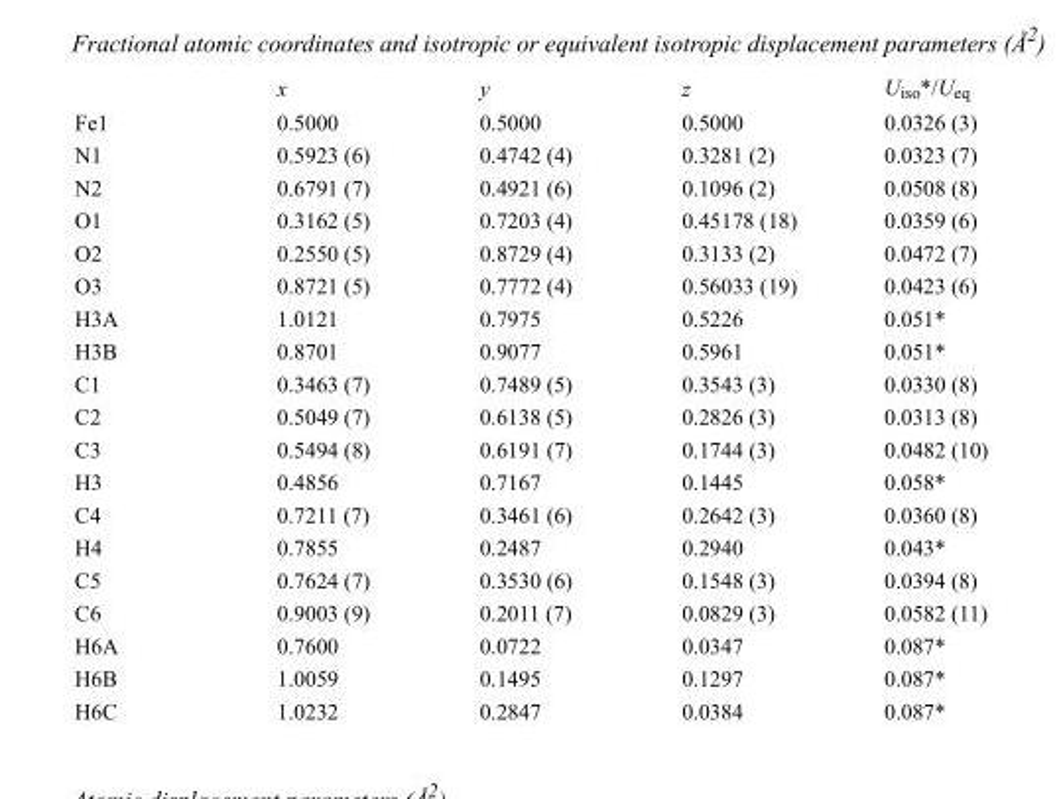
<table><thead><tr><td></td><td>x</td><td>y</td><td>z</td><td>U<sub>iso</sub>*/U<sub>eq</sub></td></tr></thead><tbody><tr><td>Fe1</td><td>0.5000</td><td>0.5000</td><td>0.5000</td><td>0.0326 (3)</td></tr><tr><td>N1</td><td>0.5923 (6)</td><td>0.4742 (4)</td><td>0.3281 (2)</td><td>0.0323 (7)</td></tr><tr><td>N2</td><td>0.6791 (7)</td><td>0.4921 (6)</td><td>0.1096 (2)</td><td>0.0508 (8)</td></tr><tr><td>O1</td><td>0.3162 (5)</td><td>0.7203 (4)</td><td>0.45178 (18)</td><td>0.0359 (6)</td></tr><tr><td>O2</td><td>0.2550 (5)</td><td>0.8729 (4)</td><td>0.3133 (2)</td><td>0.0472 (7)</td></tr><tr><td>O3</td><td>0.8721 (5)</td><td>0.7772 (4)</td><td>0.56033 (19)</td><td>0.0423 (6)</td></tr><tr><td>H3A</td><td>1.0121</td><td>0.7975</td><td>0.5226</td><td>0.051*</td></tr><tr><td>H3B</td><td>0.8701</td><td>0.9077</td><td>0.5961</td><td>0.051*</td></tr><tr><td>C1</td><td>0.3463 (7)</td><td>0.7489 (5)</td><td>0.3543 (3)</td><td>0.0330 (8)</td></tr><tr><td>C2</td><td>0.5049 (7)</td><td>0.6138 (5)</td><td>0.2826 (3)</td><td>0.0313 (8)</td></tr><tr><td>C3</td><td>0.5494 (8)</td><td>0.6191 (7)</td><td>0.1744 (3)</td><td>0.0482 (10)</td></tr><tr><td>H3</td><td>0.4856</td><td>0.7167</td><td>0.1445</td><td>0.058*</td></tr><tr><td>C4</td><td>0.7211 (7)</td><td>0.3461 (6)</td><td>0.2642 (3)</td><td>0.0360 (8)</td></tr><tr><td>H4</td><td>0.7855</td><td>0.2487</td><td>0.2940</td><td>0.043*</td></tr><tr><td>C5</td><td>0.7624 (7)</td><td>0.3530 (6)</td><td>0.1548 (3)</td><td>0.0394 (8)</td></tr><tr><td>C6</td><td>0.9003 (9)</td><td>0.2011 (7)</td><td>0.0829 (3)</td><td>0.0582 (11)</td></tr><tr><td>H6A</td><td>0.7600</td><td>0.0722</td><td>0.0347</td><td>0.087*</td></tr><tr><td>H6B</td><td>1.0059</td><td>0.1495</td><td>0.1297</td><td>0.087*</td></tr><tr><td>H6C</td><td>1.0232</td><td>0.2847</td><td>0.0384</td><td>0.087*</td></tr></tbody></table>